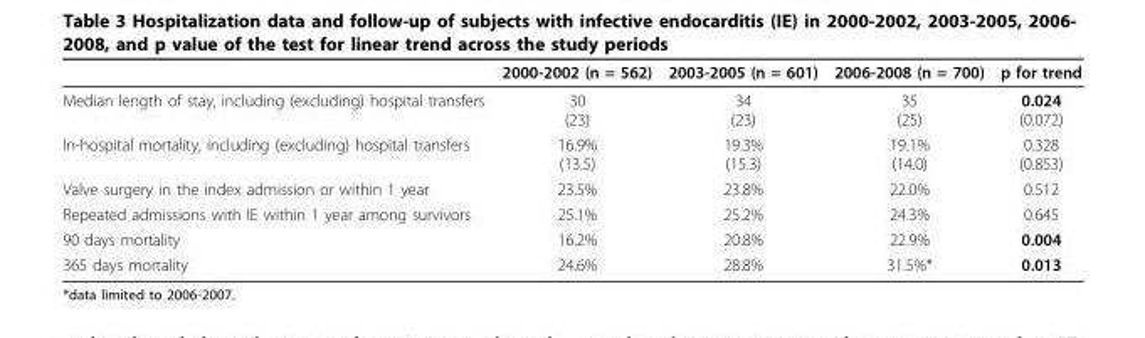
<table><thead><tr><td></td><td>2000-2002 (n = 562)</td><td>2003-2005 (n = 601)</td><td>2006-2008 (n = 700)</td><td>p for trend</td></tr></thead><tbody><tr><td>Median length of stay, including (excluding) hospital transfers</td><td>30 (23)</td><td>34 (23)</td><td>35 (25)</td><td>0.024 (0.072)</td></tr><tr><td>In-hospital mortality, including (excluding) hospital transfers</td><td>16.9% (13.5)</td><td>19.3% (15.3)</td><td>19.1% (14.0)</td><td>0.328 (0.853)</td></tr><tr><td>Valve surgery in the index admission or within 1 year</td><td>23.5%</td><td>23.8%</td><td>22.0%</td><td>0.512</td></tr><tr><td>Repeated admissions with IE within 1 year among survivors</td><td>25.1%</td><td>25.2%</td><td>24.3%</td><td>0.645</td></tr><tr><td>90 days mortality</td><td>16.2%</td><td>20.8%</td><td>22.9%</td><td>0.004</td></tr><tr><td>365 days mortality</td><td>24.6%</td><td>28.8%</td><td>31.5%*</td><td>0.013</td></tr></tbody></table>